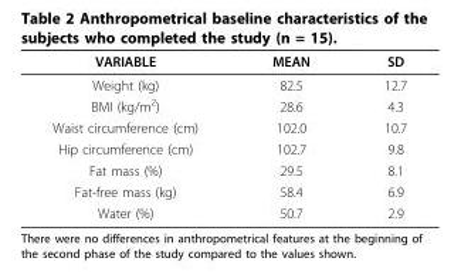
<table><thead><tr><td>VARIABLE</td><td>MEAN</td><td>SD</td></tr></thead><tbody><tr><td>Weight (kg)</td><td>82.5</td><td>12.7</td></tr><tr><td>BMI (kg/m<sup>2</sup>)</td><td>28.6</td><td>4.3</td></tr><tr><td>Waist circumference (cm)</td><td>102.0</td><td>10.7</td></tr><tr><td>Hip circumference (cm)</td><td>102.7</td><td>9.8</td></tr><tr><td>Fat mass (%)</td><td>29.5</td><td>8.1</td></tr><tr><td>Fat-free mass (kg)</td><td>58.4</td><td>6.9</td></tr><tr><td>Water (%)</td><td>50.7</td><td>2.9</td></tr></tbody></table>